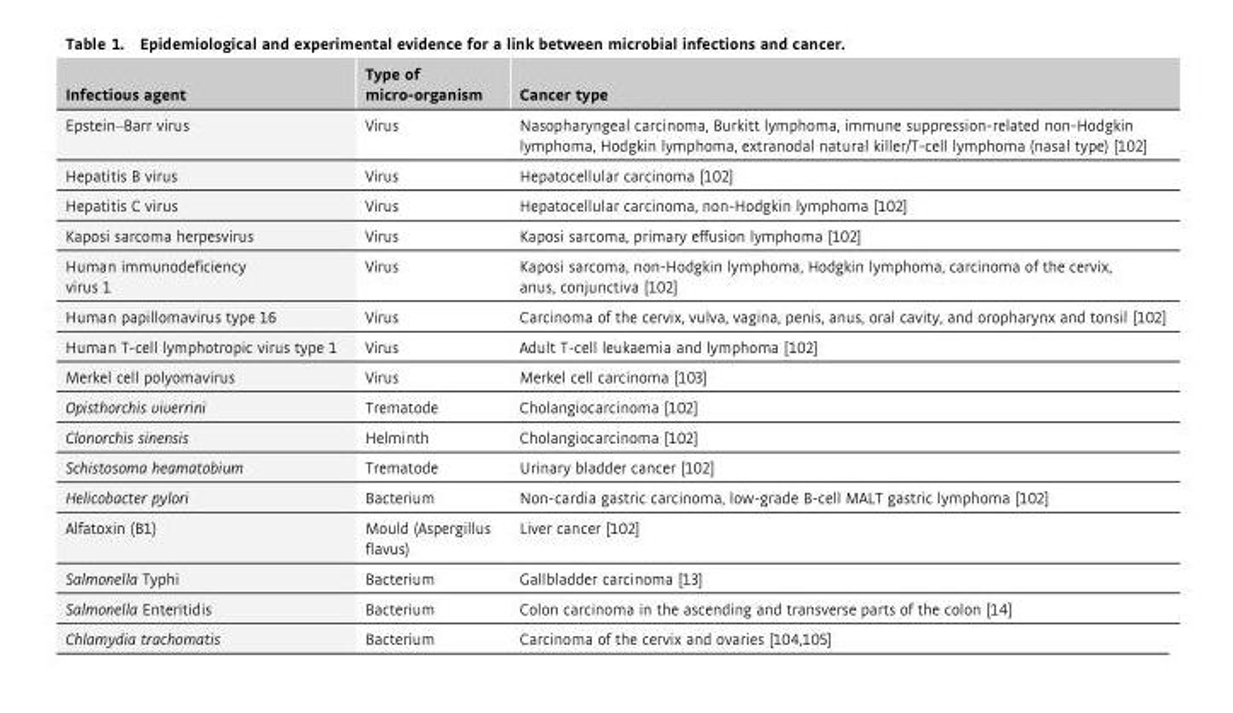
<table><thead><tr><td>Infectious agent</td><td>Type of micro-organism</td><td>Cancer type</td></tr></thead><tbody><tr><td>Epstein–Barr virus</td><td>Virus</td><td>Nasopharyngeal carcinoma, Burkitt lymphoma, immune suppression-related non-Hodgkin lymphoma, Hodgkin lymphoma, extranodal natural killer/T-cell lymphoma (nasal type) [102]</td></tr><tr><td>Hepatitis B virus</td><td>Virus</td><td>Hepatocellular carcinoma [102]</td></tr><tr><td>Hepatitis C virus</td><td>Virus</td><td>Hepatocellular carcinoma, non-Hodgkin lymphoma [102]</td></tr><tr><td>Kaposi sarcoma herpesvirus</td><td>Virus</td><td>Kaposi sarcoma, primary effusion lymphoma [102]</td></tr><tr><td>Human immunodeficiency virus 1</td><td>Virus</td><td>Kaposi sarcoma, non-Hodgkin lymphoma, Hodgkin lymphoma, carcinoma of the cervix, anus, conjunctiva [102]</td></tr><tr><td>Human papillomavirus type 16</td><td>Virus</td><td>Carcinoma of the cervix, vulva, vagina, penis, anus, oral cavity, and oropharynx and tonsil [102]</td></tr><tr><td>Human T-cell lymphotropic virus type 1</td><td>Virus</td><td>Adult T-cell leukaemia and lymphoma [102]</td></tr><tr><td>Merkel cell polyomavirus</td><td>Virus</td><td>Merkel cell carcinoma [103]</td></tr><tr><td>Opisthorchis viverrini</td><td>Trematode</td><td>Cholangiocarcinoma [102]</td></tr><tr><td>Clonorchis sinensis</td><td>Helminth</td><td>Cholangiocarcinoma [102]</td></tr><tr><td>Schistosoma heamatobium</td><td>Trematode</td><td>Urinary bladder cancer [102]</td></tr><tr><td>Helicobacter pylori</td><td>Bacterium</td><td>Non-cardia gastric carcinoma, low-grade B-cell MALT gastric lymphoma [102]</td></tr><tr><td>Alfatoxin (B1)</td><td>Mould (Aspergillus flavus)</td><td>Liver cancer [102]</td></tr><tr><td>Salmonella Typhi</td><td>Bacterium</td><td>Gallbladder carcinoma [13]</td></tr><tr><td>Salmonella Enteritidis</td><td>Bacterium</td><td>Colon carcinoma in the ascending and transverse parts of the colon [14]</td></tr><tr><td>Chlamydia trachomatis</td><td>Bacterium</td><td>Carcinoma of the cervix and ovaries [104,105]</td></tr></tbody></table>